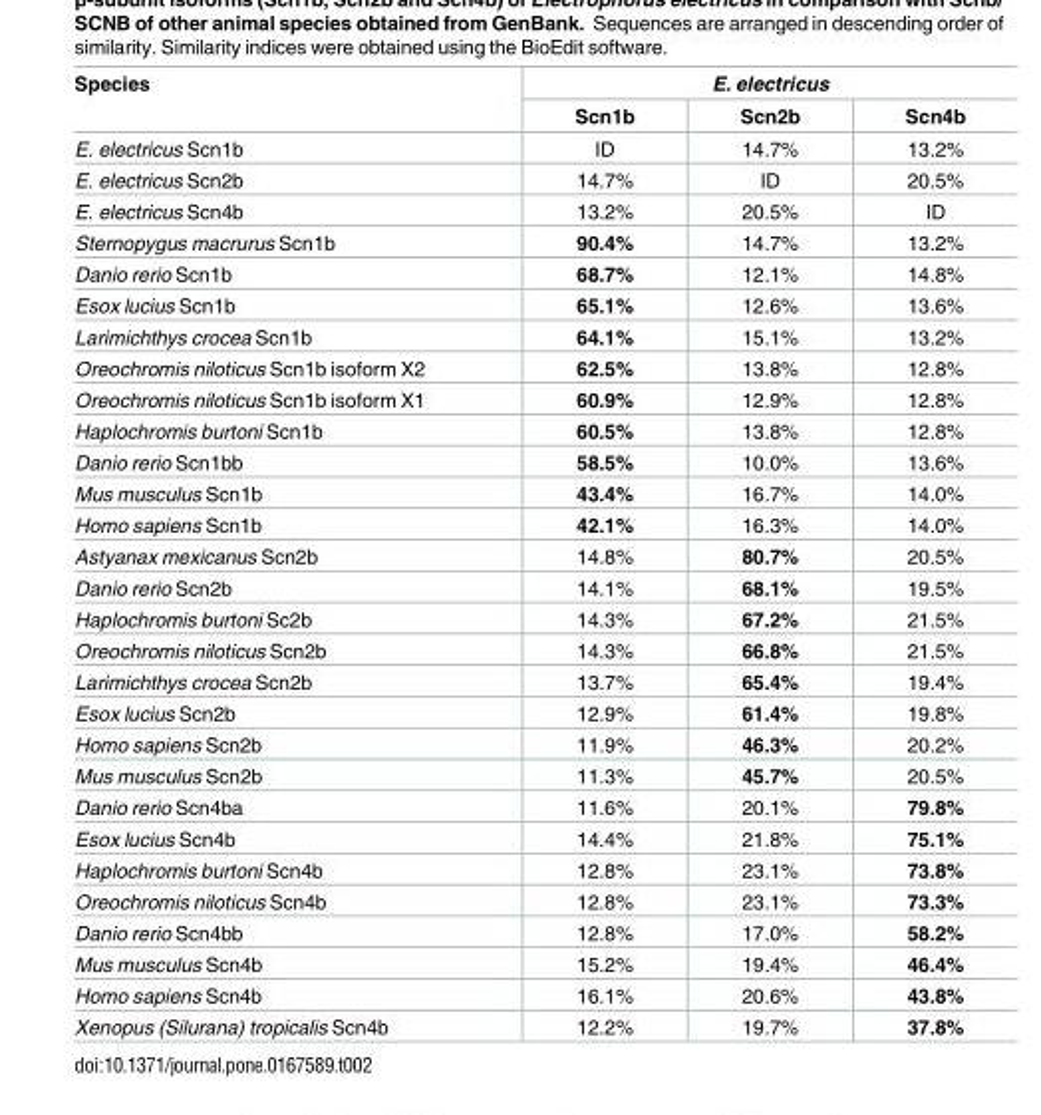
<table><thead><tr><td rowspan="2">Species</td><td colspan="3">E. electricus</td></tr><tr><td>Scn1b</td><td>Scn2b</td><td>Scn4b</td></tr></thead><tbody><tr><td>E. electricus Scn1b</td><td>ID</td><td>14.7%</td><td>13.2%</td></tr><tr><td>E. electricus Scn2b</td><td>14.7%</td><td>ID</td><td>20.5%</td></tr><tr><td>E. electricus Scn4b</td><td>13.2%</td><td>20.5%</td><td>ID</td></tr><tr><td>Sternopygus macrurus Scn1b</td><td>90.4%</td><td>14.7%</td><td>13.2%</td></tr><tr><td>Danio rerio Scn1b</td><td>68.7%</td><td>12.1%</td><td>14.8%</td></tr><tr><td>Esox lucius Scn1b</td><td>65.1%</td><td>12.6%</td><td>13.6%</td></tr><tr><td>Larimichthys crocea Scn1b</td><td>64.1%</td><td>15.1%</td><td>13.2%</td></tr><tr><td>Oreochromis niloticus Scn1b isoform X2</td><td>62.5%</td><td>13.8%</td><td>12.8%</td></tr><tr><td>Oreochromis niloticus Scn1b isoform X1</td><td>60.9%</td><td>12.9%</td><td>12.8%</td></tr><tr><td>Haplochromis burtoni Scn1b</td><td>60.5%</td><td>13.8%</td><td>12.8%</td></tr><tr><td>Danio rerio Scn1bb</td><td>58.5%</td><td>10.0%</td><td>13.6%</td></tr><tr><td>Mus musculus Scn1b</td><td>43.4%</td><td>16.7%</td><td>14.0%</td></tr><tr><td>Homo sapiens Scn1b</td><td>42.1%</td><td>16.3%</td><td>14.0%</td></tr><tr><td>Astyanax mexicanus Scn2b</td><td>14.8%</td><td>80.7%</td><td>20.5%</td></tr><tr><td>Danio rerio Scn2b</td><td>14.1%</td><td>68.1%</td><td>19.5%</td></tr><tr><td>Haplochromis burtoni Sc2b</td><td>14.3%</td><td>67.2%</td><td>21.5%</td></tr><tr><td>Oreochromis niloticus Scn2b</td><td>14.3%</td><td>66.8%</td><td>21.5%</td></tr><tr><td>Larimichthys crocea Scn2b</td><td>13.7%</td><td>65.4%</td><td>19.4%</td></tr><tr><td>Esox lucius Scn2b</td><td>12.9%</td><td>61.4%</td><td>19.8%</td></tr><tr><td>Homo sapiens Scn2b</td><td>11.9%</td><td>46.3%</td><td>20.2%</td></tr><tr><td>Mus musculus Scn2b</td><td>11.3%</td><td>45.7%</td><td>20.5%</td></tr><tr><td>Danio rerio Scn4ba</td><td>11.6%</td><td>20.1%</td><td>79.8%</td></tr><tr><td>Esox lucius Scn4b</td><td>14.4%</td><td>21.8%</td><td>75.1%</td></tr><tr><td>Haplochromis burtoni Scn4b</td><td>12.8%</td><td>23.1%</td><td>73.8%</td></tr><tr><td>Oreochromis niloticus Scn4b</td><td>12.8%</td><td>23.1%</td><td>73.3%</td></tr><tr><td>Danio rerio Scn4bb</td><td>12.8%</td><td>17.0%</td><td>58.2%</td></tr><tr><td>Mus musculus Scn4b</td><td>15.2%</td><td>19.4%</td><td>46.4%</td></tr><tr><td>Homo sapiens Scn4b</td><td>16.1%</td><td>20.6%</td><td>43.8%</td></tr><tr><td>Xenopus (Silurana) tropicalis Scn4b</td><td>12.2%</td><td>19.7%</td><td>37.8%</td></tr></tbody></table>